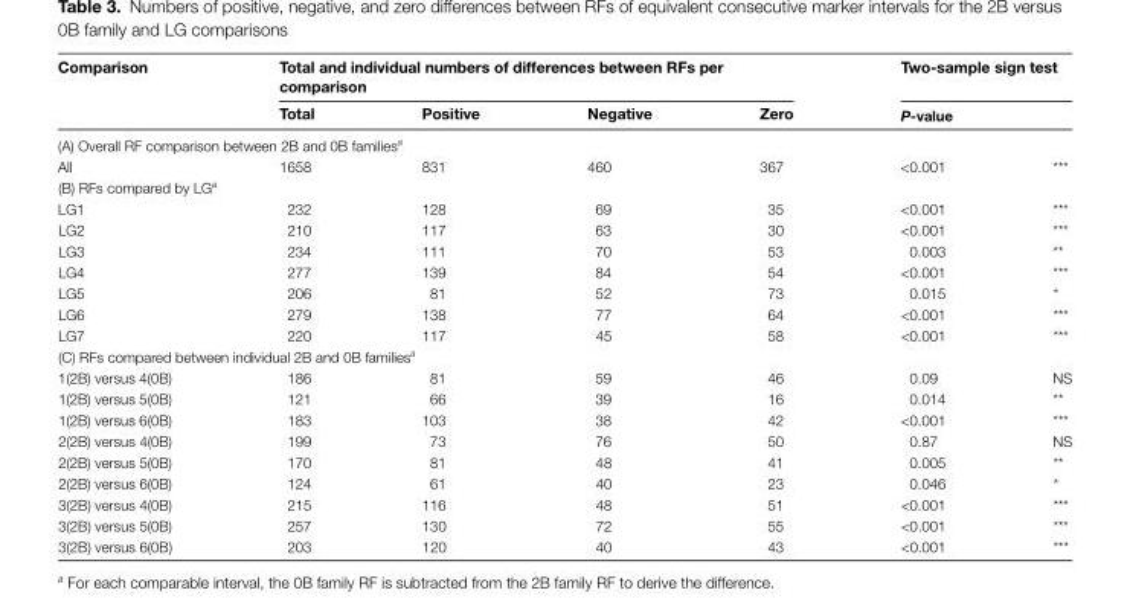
<table><thead><tr><td rowspan="2">Comparison</td><td colspan="4">Total and individual numbers of differences between RFs per comparison</td><td rowspan="2" colspan="2">Two-sample sign test P-value</td></tr><tr><td>Total</td><td>Positive</td><td>Negative</td><td>Zero</td></tr><tr><td colspan="7">(A) Overall RF comparison between 2B and 0B families<sup>a</sup></td></tr><tr><td>All</td><td>1658</td><td>831</td><td>460</td><td>367</td><td>&lt;0.001</td><td>***</td></tr></thead><tbody><tr><td colspan="7">(B) RFs compared by LG<sup>a</sup></td></tr><tr><td>LG1</td><td>232</td><td>128</td><td>69</td><td>35</td><td>&lt;0.001</td><td>***</td></tr><tr><td>LG2</td><td>210</td><td>117</td><td>63</td><td>30</td><td>&lt;0.001</td><td>***</td></tr><tr><td>LG3</td><td>234</td><td>111</td><td>70</td><td>53</td><td>0.003</td><td>**</td></tr><tr><td>LG4</td><td>277</td><td>139</td><td>84</td><td>54</td><td>&lt;0.001</td><td>***</td></tr><tr><td>LG5</td><td>206</td><td>81</td><td>52</td><td>73</td><td>0.015</td><td>*</td></tr><tr><td>LG6</td><td>279</td><td>138</td><td>77</td><td>64</td><td>&lt;0.001</td><td>***</td></tr><tr><td>LG7</td><td>220</td><td>117</td><td>45</td><td>58</td><td>&lt;0.001</td><td>***</td></tr><tr><td colspan="7">(C) RFs compared between individual 2B and 0B families<sup>a</sup></td></tr><tr><td>1(2B) versus 4(0B)</td><td>186</td><td>81</td><td>59</td><td>46</td><td>0.09</td><td>NS</td></tr><tr><td>1(2B) versus 5(0B)</td><td>121</td><td>66</td><td>39</td><td>16</td><td>0.014</td><td>**</td></tr><tr><td>1(2B) versus 6(0B)</td><td>183</td><td>103</td><td>38</td><td>42</td><td>&lt;0.001</td><td>***</td></tr><tr><td>2(2B) versus 4(0B)</td><td>199</td><td>73</td><td>76</td><td>50</td><td>0.87</td><td>NS</td></tr><tr><td>2(2B) versus 5(0B)</td><td>170</td><td>81</td><td>48</td><td>41</td><td>0.005</td><td>**</td></tr><tr><td>2(2B) versus 6(0B)</td><td>124</td><td>61</td><td>40</td><td>23</td><td>0.046</td><td>*</td></tr><tr><td>3(2B) versus 4(0B)</td><td>215</td><td>116</td><td>48</td><td>51</td><td>&lt;0.001</td><td>***</td></tr><tr><td>3(2B) versus 5(0B)</td><td>257</td><td>130</td><td>72</td><td>55</td><td>&lt;0.001</td><td>***</td></tr><tr><td>3(2B) versus 6(0B)</td><td>203</td><td>120</td><td>40</td><td>43</td><td>&lt;0.001</td><td>***</td></tr></tbody></table>